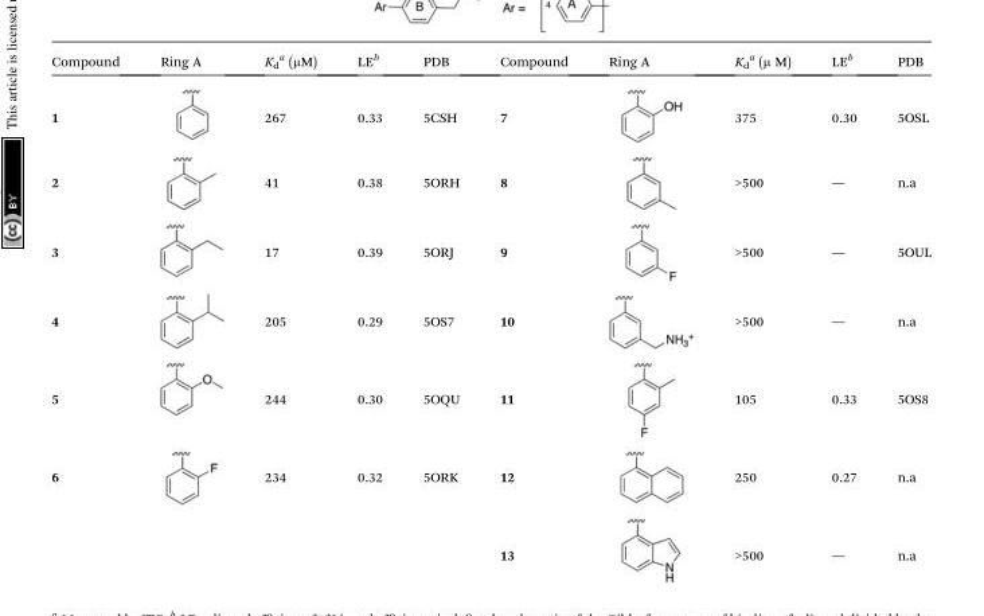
<table><thead><tr><td>Compound</td><td>Ring A</td><td>K<sub>d</sub> <sup>a</sup> (μM)</td><td>LE<sup>b</sup></td><td>PDB</td><td>Compound</td><td>Ring A</td><td>K<sub>d</sub> <sup>a</sup> (μ M)</td><td>LE<sup>b</sup></td><td>PDB</td></tr></thead><tbody><tr><td>1</td><td></td><td>267</td><td>0.33</td><td>5CSH</td><td>7</td><td></td><td>375</td><td>0.30</td><td>5OSL</td></tr><tr><td>2</td><td></td><td>41</td><td>0.38</td><td>5ORH</td><td>8</td><td></td><td>&gt;500</td><td>—</td><td>n.a</td></tr><tr><td>3</td><td></td><td>17</td><td>0.39</td><td>5ORJ</td><td>9</td><td></td><td>&gt;500</td><td>—</td><td>5OUL</td></tr><tr><td>4</td><td></td><td>205</td><td>0.29</td><td>5OS7</td><td>10</td><td></td><td>&gt;500</td><td>—</td><td>n.a</td></tr><tr><td>5</td><td></td><td>244</td><td>0.30</td><td>5OQU</td><td>11</td><td></td><td>105</td><td>0.33</td><td>5OS8</td></tr><tr><td rowspan="2">6</td><td></td><td>234</td><td>0.32</td><td>5ORK</td><td>12</td><td></td><td>250</td><td>0.27</td><td>n.a</td></tr><tr><td></td><td></td><td></td><td></td><td>13</td><td></td><td>&gt;500</td><td>—</td><td>n.a</td></tr></tbody></table>